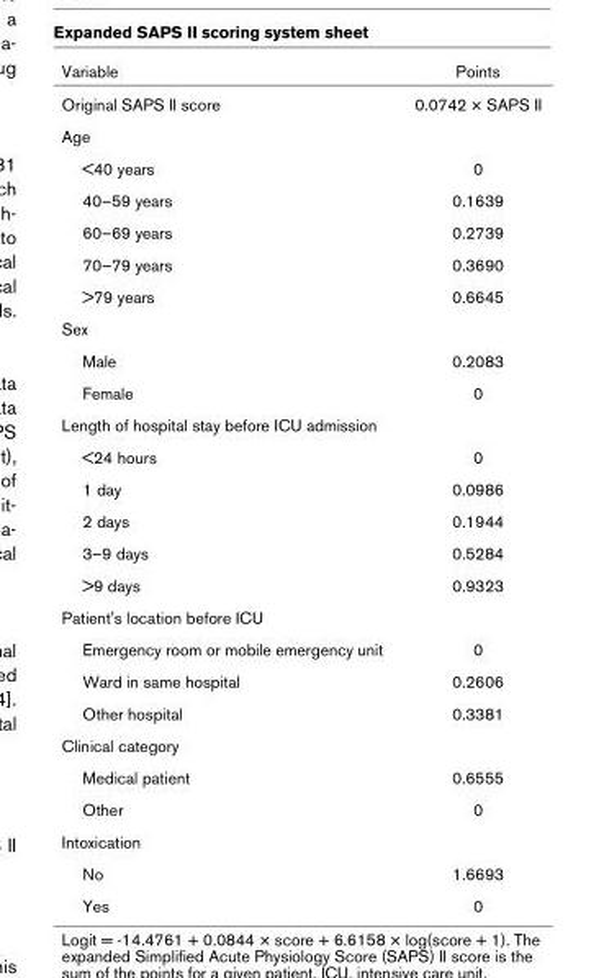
<table><thead><tr><td>Variable</td><td>Points</td></tr></thead><tbody><tr><td>Original SAPS II score</td><td>0.0742 × SAPS II</td></tr><tr><td colspan="2">Age</td></tr><tr><td>&lt;40 years</td><td>0</td></tr><tr><td>40–59 years</td><td>0.1639</td></tr><tr><td>60–69 years</td><td>0.2739</td></tr><tr><td>70–79 years</td><td>0.3690</td></tr><tr><td>&gt;79 years</td><td>0.6645</td></tr><tr><td colspan="2">Sex</td></tr><tr><td>Male</td><td>0.2083</td></tr><tr><td>Female</td><td>0</td></tr><tr><td colspan="2">Length of hospital stay before ICU admission</td></tr><tr><td>&lt;24 hours</td><td>0</td></tr><tr><td>1 day</td><td>0.0986</td></tr><tr><td>2 days</td><td>0.1944</td></tr><tr><td>3–9 days</td><td>0.5284</td></tr><tr><td>&gt;9 days</td><td>0.9323</td></tr><tr><td colspan="2">Patient&#x27;s location before ICU</td></tr><tr><td>Emergency room or mobile emergency unit</td><td>0</td></tr><tr><td>Ward in same hospital</td><td>0.2606</td></tr><tr><td>Other hospital</td><td>0.3381</td></tr><tr><td colspan="2">Clinical category</td></tr><tr><td>Medical patient</td><td>0.6555</td></tr><tr><td>Other</td><td>0</td></tr><tr><td colspan="2">Intoxication</td></tr><tr><td>No</td><td>1.6693</td></tr><tr><td>Yes</td><td>0</td></tr></tbody></table>